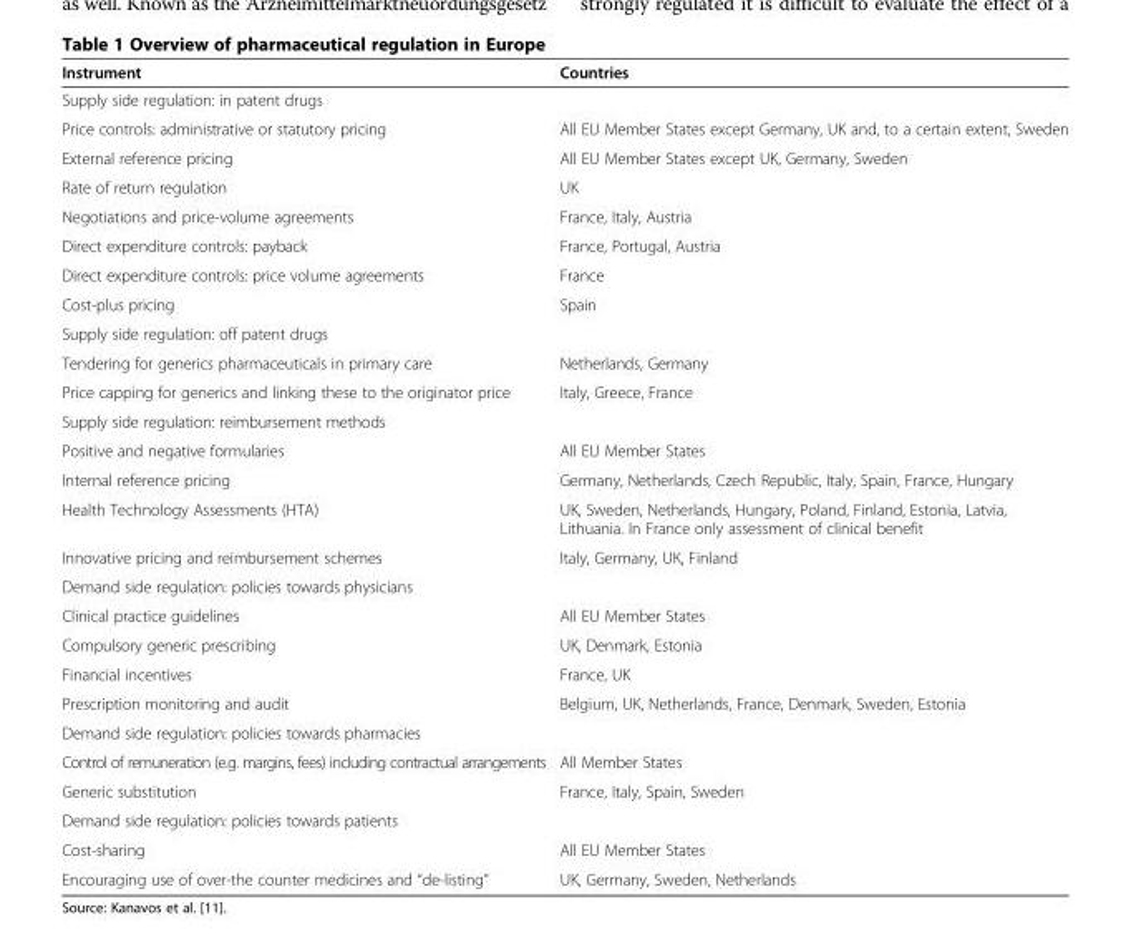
<table><thead><tr><td>Instrument</td><td>Countries</td></tr></thead><tbody><tr><td colspan="2">Supply side regulation: in patent drugs</td></tr><tr><td>Price controls: administrative or statutory pricing</td><td>All EU Member States except Germany, UK and, to a certain extent, Sweden</td></tr><tr><td>External reference pricing</td><td>All EU Member States except UK, Germany, Sweden</td></tr><tr><td>Rate of return regulation</td><td>UK</td></tr><tr><td>Negotiations and price-volume agreements</td><td>France, Italy, Austria</td></tr><tr><td>Direct expenditure controls: payback</td><td>France, Portugal, Austria</td></tr><tr><td>Direct expenditure controls: price volume agreements</td><td>France</td></tr><tr><td>Cost-plus pricing</td><td>Spain</td></tr><tr><td colspan="2">Supply side regulation: off patent drugs</td></tr><tr><td>Tendering for generics pharmaceuticals in primary care</td><td>Netherlands, Germany</td></tr><tr><td>Price capping for generics and linking these to the originator price</td><td>Italy, Greece, France</td></tr><tr><td colspan="2">Supply side regulation: reimbursement methods</td></tr><tr><td>Positive and negative formularies</td><td>All EU Member States</td></tr><tr><td>Internal reference pricing</td><td>Germany, Netherlands, Czech Republic, Italy, Spain, France, Hungary</td></tr><tr><td>Health Technology Assessments (HTA)</td><td>UK, Sweden, Netherlands, Hungary, Poland, Finland, Estonia, Latvia, Lithuania. In France only assessment of clinical benefit</td></tr><tr><td>Innovative pricing and reimbursement schemes</td><td>Italy, Germany, UK, Finland</td></tr><tr><td colspan="2">Demand side regulation: policies towards physicians</td></tr><tr><td>Clinical practice guidelines</td><td>All EU Member States</td></tr><tr><td>Compulsory generic prescribing</td><td>UK, Denmark, Estonia</td></tr><tr><td>Financial incentives</td><td>France, UK</td></tr><tr><td>Prescription monitoring and audit</td><td>Belgium, UK, Netherlands, France, Denmark, Sweden, Estonia</td></tr><tr><td colspan="2">Demand side regulation: policies towards pharmacies</td></tr><tr><td>Control of remuneration (e.g. margins, fees) including contractual arrangements</td><td>All Member States</td></tr><tr><td>Generic substitution</td><td>France, Italy, Spain, Sweden</td></tr><tr><td colspan="2">Demand side regulation: policies towards patients</td></tr><tr><td>Cost-sharing</td><td>All EU Member States</td></tr><tr><td>Encouraging use of over-the counter medicines and “de-listing”</td><td>UK, Germany, Sweden, Netherlands</td></tr></tbody></table>